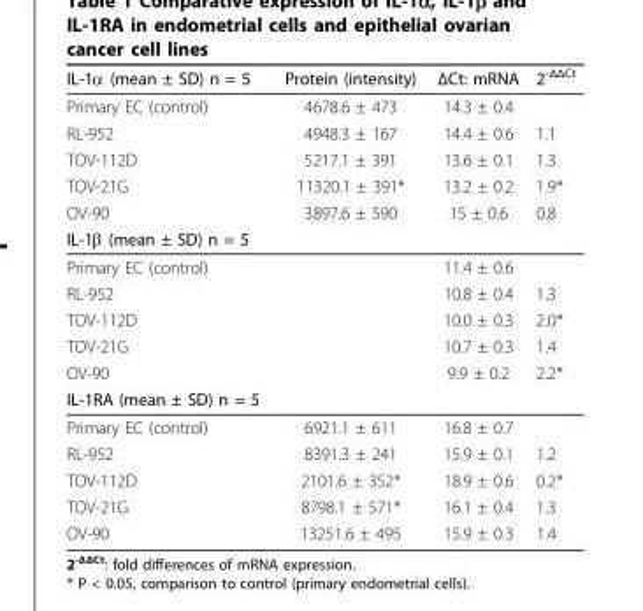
<table><thead><tr><td>IL-1α (mean ± SD) n = 5</td><td>Protein (intensity)</td><td>ΔCt: mRNA</td><td>2<sup>-ΔΔCt</sup></td></tr></thead><tbody><tr><td>Primary EC (control)</td><td>4678.6 ± 473</td><td>14.3 ± 0.4</td><td></td></tr><tr><td>RL-952</td><td>4948.3 ± 167</td><td>14.4 ± 0.6</td><td>1.1</td></tr><tr><td>TOV-112D</td><td>5217.1 ± 391</td><td>13.6 ± 0.1</td><td>1.3</td></tr><tr><td>TOV-21G</td><td>11320.1 ± 391*</td><td>13.2 ± 0.2</td><td>1.9*</td></tr><tr><td>OV-90</td><td>3897.6 ± 590</td><td>15 ± 0.6</td><td>0.8</td></tr><tr><td colspan="4">IL-1β (mean ± SD) n = 5</td></tr><tr><td>Primary EC (control)</td><td></td><td>11.4 ± 0.6</td><td></td></tr><tr><td>RL-952</td><td></td><td>10.8 ± 0.4</td><td>1.3</td></tr><tr><td>TOV-112D</td><td></td><td>10.0 ± 0.3</td><td>2.0*</td></tr><tr><td>TOV-21G</td><td></td><td>10.7 ± 0.3</td><td>1.4</td></tr><tr><td>OV-90</td><td></td><td>9.9 ± 0.2</td><td>2.2*</td></tr><tr><td colspan="4">IL-1RA (mean ± SD) n = 5</td></tr><tr><td>Primary EC (control)</td><td>6921.1 ± 611</td><td>16.8 ± 0.7</td><td></td></tr><tr><td>RL-952</td><td>8391.3 ± 241</td><td>15.9 ± 0.1</td><td>1.2</td></tr><tr><td>TOV-112D</td><td>2101.6 ± 352*</td><td>18.9 ± 0.6</td><td>0.2*</td></tr><tr><td>TOV-21G</td><td>8798.1 ± 571*</td><td>16.1 ± 0.4</td><td>1.3</td></tr><tr><td>OV-90</td><td>13251.6 ± 495</td><td>15.9 ± 0.3</td><td>1.4</td></tr></tbody></table>